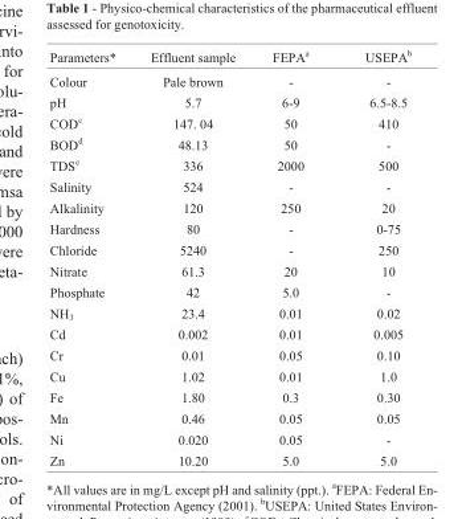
<table><thead><tr><td>Parameters*</td><td>Effluent sample</td><td>FEPA<sup>a</sup></td><td>USEPA<sup>b</sup></td></tr></thead><tbody><tr><td>Colour</td><td>Pale brown</td><td>-</td><td>-</td></tr><tr><td>pH</td><td>5.7</td><td>6-9</td><td>6.5-8.5</td></tr><tr><td>COD<sup>c</sup></td><td>147. 04</td><td>50</td><td>410</td></tr><tr><td>BOD<sup>d</sup></td><td>48.13</td><td>50</td><td>-</td></tr><tr><td>TDS<sup>e</sup></td><td>336</td><td>2000</td><td>500</td></tr><tr><td>Salinity</td><td>524</td><td>-</td><td>-</td></tr><tr><td>Alkalinity</td><td>120</td><td>250</td><td>20</td></tr><tr><td>Hardness</td><td>80</td><td>-</td><td>0-75</td></tr><tr><td>Chloride</td><td>5240</td><td>-</td><td>250</td></tr><tr><td>Nitrate</td><td>61.3</td><td>20</td><td>10</td></tr><tr><td>Phosphate</td><td>42</td><td>5.0</td><td>-</td></tr><tr><td>NH<sub>3</sub></td><td>23.4</td><td>0.01</td><td>0.02</td></tr><tr><td>Cd</td><td>0.002</td><td>0.01</td><td>0.005</td></tr><tr><td>Cr</td><td>0.01</td><td>0.05</td><td>0.10</td></tr><tr><td>Cu</td><td>1.02</td><td>0.01</td><td>1.0</td></tr><tr><td>Fe</td><td>1.80</td><td>0.3</td><td>0.30</td></tr><tr><td>Mn</td><td>0.46</td><td>0.05</td><td>0.05</td></tr><tr><td>Ni</td><td>0.020</td><td>0.05</td><td>-</td></tr><tr><td>Zn</td><td>10.20</td><td>5.0</td><td>5.0</td></tr></tbody></table>